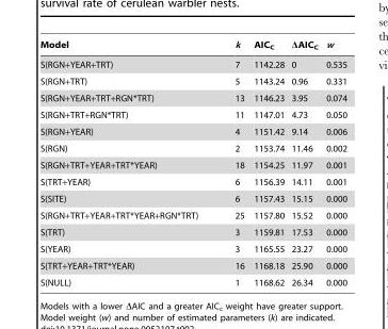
<table><thead><tr><td>Model</td><td>k</td><td>AIC<sub>C</sub></td><td>ΔAIC<sub>C</sub></td><td>w</td></tr></thead><tbody><tr><td>S(RGN+YEAR+TRT)</td><td>7</td><td>1142.28</td><td>0</td><td>0.535</td></tr><tr><td>S(RGN+TRT)</td><td>5</td><td>1143.24</td><td>0.96</td><td>0.331</td></tr><tr><td>S(RGN+YEAR+TRT+RGN*TRT)</td><td>13</td><td>1146.23</td><td>3.95</td><td>0.074</td></tr><tr><td>S(RGN+TRT+RGN*TRT)</td><td>11</td><td>1147.01</td><td>4.73</td><td>0.050</td></tr><tr><td>S(RGN+YEAR)</td><td>4</td><td>1151.42</td><td>9.14</td><td>0.006</td></tr><tr><td>S(RGN)</td><td>2</td><td>1153.74</td><td>11.46</td><td>0.002</td></tr><tr><td>S(RGN+TRT+YEAR+TRT*YEAR)</td><td>18</td><td>1154.25</td><td>11.97</td><td>0.001</td></tr><tr><td>S(TRT+YEAR)</td><td>6</td><td>1156.39</td><td>14.11</td><td>0.001</td></tr><tr><td>S(SITE)</td><td>6</td><td>1157.43</td><td>15.15</td><td>0.000</td></tr><tr><td>S(RGN+TRT+YEAR+TRT*YEAR+RGN*TRT)</td><td>25</td><td>1157.80</td><td>15.52</td><td>0.000</td></tr><tr><td>S(TRT)</td><td>3</td><td>1159.81</td><td>17.53</td><td>0.000</td></tr><tr><td>S(YEAR)</td><td>3</td><td>1165.55</td><td>23.27</td><td>0.000</td></tr><tr><td>S(TRT+YEAR+TRT*YEAR)</td><td>16</td><td>1168.18</td><td>25.90</td><td>0.000</td></tr><tr><td>S(NULL)</td><td>1</td><td>1168.62</td><td>26.34</td><td>0.000</td></tr></tbody></table>